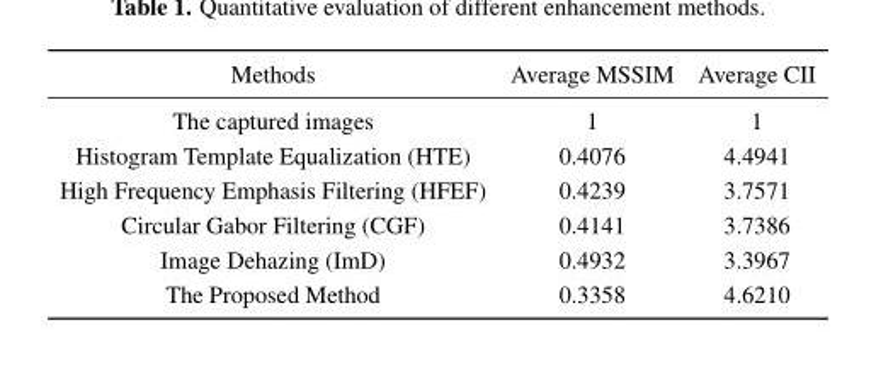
<table><thead><tr><td>Methods</td><td>Average MSSIM</td><td>Average CII</td></tr></thead><tbody><tr><td>The captured images</td><td>1</td><td>1</td></tr><tr><td>Histogram Template Equalization (HTE)</td><td>0.4076</td><td>4.4941</td></tr><tr><td>High Frequency Emphasis Filtering (HFEF)</td><td>0.4239</td><td>3.7571</td></tr><tr><td>Circular Gabor Filtering (CGF)</td><td>0.4141</td><td>3.7386</td></tr><tr><td>Image Dehazing (ImD)</td><td>0.4932</td><td>3.3967</td></tr><tr><td>The Proposed Method</td><td>0.3358</td><td>4.6210</td></tr></tbody></table>